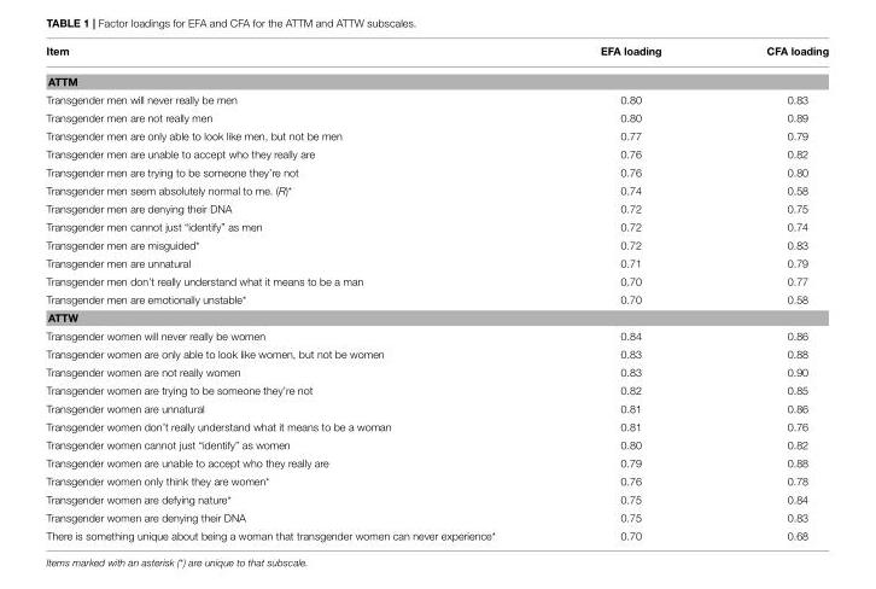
<table><thead><tr><td>Item</td><td>EFA loading</td><td>CFA loading</td></tr></thead><tbody><tr><td colspan="3">ATTM</td></tr><tr><td>Transgender men will never really be men</td><td>0.80</td><td>0.83</td></tr><tr><td>Transgender men are not really men</td><td>0.80</td><td>0.89</td></tr><tr><td>Transgender men are only able to look like men, but not be men</td><td>0.77</td><td>0.79</td></tr><tr><td>Transgender men are unable to accept who they really are</td><td>0.76</td><td>0.82</td></tr><tr><td>Transgender men are trying to be someone they’re not</td><td>0.76</td><td>0.80</td></tr><tr><td>Transgender men seem absolutely normal to me. (R)*</td><td>0.74</td><td>0.58</td></tr><tr><td>Transgender men are denying their DNA</td><td>0.72</td><td>0.75</td></tr><tr><td>Transgender men cannot just “identify” as men</td><td>0.72</td><td>0.74</td></tr><tr><td>Transgender men are misguided*</td><td>0.72</td><td>0.83</td></tr><tr><td>Transgender men are unnatural</td><td>0.71</td><td>0.79</td></tr><tr><td>Transgender men don’t really understand what it means to be a man</td><td>0.70</td><td>0.77</td></tr><tr><td>Transgender men are emotionally unstable*</td><td>0.70</td><td>0.58</td></tr><tr><td colspan="3">ATTW</td></tr><tr><td>Transgender women will never really be women</td><td>0.84</td><td>0.86</td></tr><tr><td>Transgender women are only able to look like women, but not be women</td><td>0.83</td><td>0.88</td></tr><tr><td>Transgender women are not really women</td><td>0.83</td><td>0.90</td></tr><tr><td>Transgender women are trying to be someone they’re not</td><td>0.82</td><td>0.85</td></tr><tr><td>Transgender women are unnatural</td><td>0.81</td><td>0.86</td></tr><tr><td>Transgender women don’t really understand what it means to be a woman</td><td>0.81</td><td>0.76</td></tr><tr><td>Transgender women cannot just “identify” as women</td><td>0.80</td><td>0.82</td></tr><tr><td>Transgender women are unable to accept who they really are</td><td>0.79</td><td>0.88</td></tr><tr><td>Transgender women only think they are women*</td><td>0.76</td><td>0.78</td></tr><tr><td>Transgender women are defying nature*</td><td>0.75</td><td>0.84</td></tr><tr><td>Transgender women are denying their DNA</td><td>0.75</td><td>0.83</td></tr><tr><td>There is something unique about being a woman that transgender women can never experience*</td><td>0.70</td><td>0.68</td></tr></tbody></table>